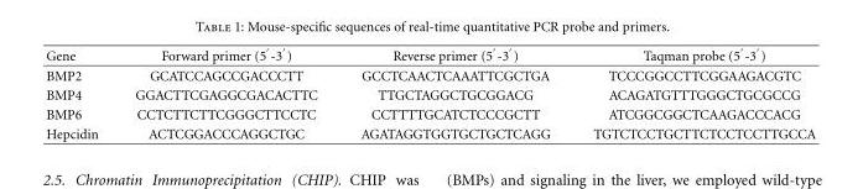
<table><thead><tr><td>Gene</td><td>Forward primer (5 <sup>′</sup>-3 <sup>′</sup>)</td><td>Reverse primer (5 <sup>′</sup>-3 <sup>′</sup>)</td><td>Taqman probe (5 <sup>′</sup>-3 <sup>′</sup>)</td></tr></thead><tbody><tr><td>BMP2</td><td>GCATCCAGCCGACCCTT</td><td>GCCTCAACTCAAATTCGCTGA</td><td>TCCCGGCCTTCGGAAGACGTC</td></tr><tr><td>BMP4</td><td>GGACTTCGAGGCGACACTTC</td><td>TTGCTAGGCTGCGGACG</td><td>ACAGATGTTTGGGCTGCGCCG</td></tr><tr><td>BMP6</td><td>CCTCTTCTTCGGGCTTCCTC</td><td>CCTTTTGCATCTCCCGCTT</td><td>ATCGGCGGCTCAAGACCCACG</td></tr><tr><td>Hepcidin</td><td>ACTCGGACCCAGGCTGC</td><td>AGATAGGTGGTGCTGCTCAGG</td><td>TGTCTCCTGCTTCTCCTCCTTGCCA</td></tr></tbody></table>